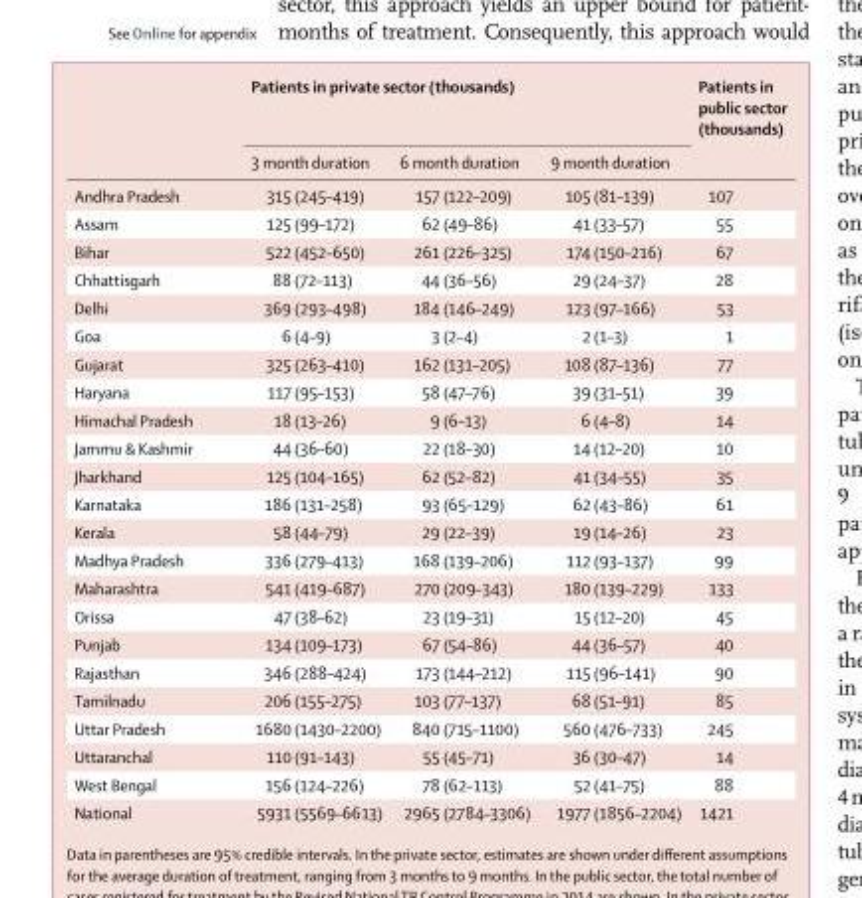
<table><thead><tr><td rowspan="2"></td><td colspan="3">Patients in private sector (thousands)</td><td rowspan="2">Patients in public sector (thousands)</td></tr><tr><td>3 month duration</td><td>6 month duration</td><td>9 month duration</td></tr></thead><tbody><tr><td>Andhra Pradesh</td><td>315 (245–419)</td><td>157 (122–209)</td><td>105 (81–139)</td><td>107</td></tr><tr><td>Assam</td><td>125 (99–172)</td><td>62 (49–86)</td><td>41 (33–57)</td><td>55</td></tr><tr><td>Bihar</td><td>522 (452–650)</td><td>261 (226–325)</td><td>174 (150–216)</td><td>67</td></tr><tr><td>Chhattisgarh</td><td>88 (72–113)</td><td>44 (36–56)</td><td>29 (24–37)</td><td>28</td></tr><tr><td>Delhi</td><td>369 (293–498)</td><td>184 (146–249)</td><td>123 (97–166)</td><td>53</td></tr><tr><td>Goa</td><td>6 (4–9)</td><td>3 (2–4)</td><td>2 (1–3)</td><td>1</td></tr><tr><td>Gujarat</td><td>325 (263–410)</td><td>162 (131–205)</td><td>108 (87–136)</td><td>77</td></tr><tr><td>Haryana</td><td>117 (95–153)</td><td>58 (47–76)</td><td>39 (31–51)</td><td>39</td></tr><tr><td>Himachal Pradesh</td><td>18 (13–26)</td><td>9 (6–13)</td><td>6 (4–8)</td><td>14</td></tr><tr><td>Jammu &amp; Kashmir</td><td>44 (36–60)</td><td>22 (18–30)</td><td>14 (12–20)</td><td>10</td></tr><tr><td>Jharkhand</td><td>125 (104–165)</td><td>62 (52–82)</td><td>41 (34–55)</td><td>35</td></tr><tr><td>Karnataka</td><td>186 (131–258)</td><td>93 (65–129)</td><td>62 (43–86)</td><td>61</td></tr><tr><td>Kerala</td><td>58 (44–79)</td><td>29 (22–39)</td><td>19 (14–26)</td><td>23</td></tr><tr><td>Madhya Pradesh</td><td>336 (279–413)</td><td>168 (139–206)</td><td>112 (93–137)</td><td>99</td></tr><tr><td>Maharashtra</td><td>541 (419–687)</td><td>270 (209–343)</td><td>180 (139–229)</td><td>133</td></tr><tr><td>Orissa</td><td>47 (38–62)</td><td>23 (19–31)</td><td>15 (12–20)</td><td>45</td></tr><tr><td>Punjab</td><td>134 (109–173)</td><td>67 (54–86)</td><td>44 (36–57)</td><td>40</td></tr><tr><td>Rajasthan</td><td>346 (288–424)</td><td>173 (144–212)</td><td>115 (96–141)</td><td>90</td></tr><tr><td>Tamilnadu</td><td>206 (155–275)</td><td>103 (77–137)</td><td>68 (51–91)</td><td>85</td></tr><tr><td>Uttar Pradesh</td><td>1680 (1430–2200)</td><td>840 (715–1100)</td><td>560 (476–733)</td><td>245</td></tr><tr><td>Uttaranchal</td><td>110 (91–143)</td><td>55 (45–71)</td><td>36 (30–47)</td><td>14</td></tr><tr><td>West Bengal</td><td>156 (124–226)</td><td>78 (62–113)</td><td>52 (41–75)</td><td>88</td></tr><tr><td>National</td><td>5931 (5569–6613)</td><td>2965 (2784–3306)</td><td>1977 (1856–2204)</td><td>1421</td></tr></tbody></table>